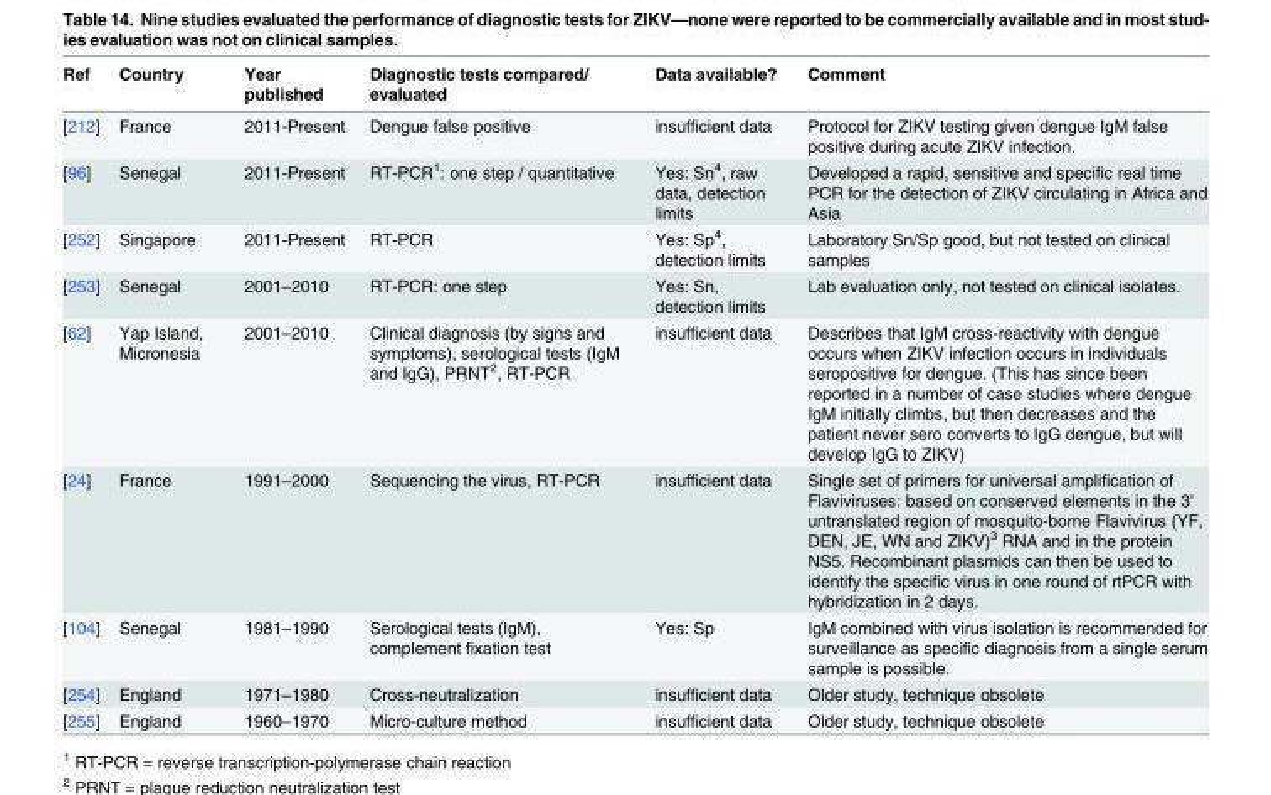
<table><thead><tr><td>Ref</td><td>Country</td><td>Year published</td><td>Diagnostic tests compared/ evaluated</td><td>Data available?</td><td>Comment</td></tr></thead><tbody><tr><td>[212]</td><td>France</td><td>2011-Present</td><td>Dengue false positive</td><td>insufficient data</td><td>Protocol for ZIKV testing given dengue IgM false positive during acute ZIKV infection.</td></tr><tr><td>[96]</td><td>Senegal</td><td>2011-Present</td><td>RT-PCR<sup>1</sup>: one step / quantitative</td><td>Yes: Sn<sup>4</sup>, raw data, detection limits</td><td>Developed a rapid, sensitive and specific real time PCR for the detection of ZIKV circulating in Africa and Asia</td></tr><tr><td>[252]</td><td>Singapore</td><td>2011-Present</td><td>RT-PCR</td><td>Yes: Sp<sup>4</sup>, detection limits</td><td>Laboratory Sn/Sp good, but not tested on clinical samples</td></tr><tr><td>[253]</td><td>Senegal</td><td>2001–2010</td><td>RT-PCR: one step</td><td>Yes: Sn, detection limits</td><td>Lab evaluation only, not tested on clinical isolates.</td></tr><tr><td>[62]</td><td>Yap Island, Micronesia</td><td>2001–2010</td><td>Clinical diagnosis (by signs and symptoms), serological tests (IgM and IgG), PRNT<sup>2</sup>, RT-PCR</td><td>insufficient data</td><td>Describes that IgM cross-reactivity with dengue occurs when ZIKV infection occurs in individuals seropositive for dengue. (This has since been reported in a number of case studies where dengue IgM initially climbs, but then decreases and the patient never sero converts to IgG dengue, but will develop IgG to ZIKV)</td></tr><tr><td>[24]</td><td>France</td><td>1991–2000</td><td>Sequencing the virus, RT-PCR</td><td>insufficient data</td><td>Single set of primers for universal amplification of Flaviviruses: based on conserved elements in the 3&#x27; untranslated region of mosquito-borne Flavivirus (YF, DEN, JE, WN and ZIKV)<sup>3</sup> RNA and in the protein NS5. Recombinant plasmids can then be used to identify the specific virus in one round of rtPCR with hybridization in 2 days.</td></tr><tr><td>[104]</td><td>Senegal</td><td>1981–1990</td><td>Serological tests (IgM), complement fixation test</td><td>Yes: Sp</td><td>IgM combined with virus isolation is recommended for surveillance as specific diagnosis from a single serum sample is possible.</td></tr><tr><td>[254]</td><td>England</td><td>1971–1980</td><td>Cross-neutralization</td><td>insufficient data</td><td>Older study, technique obsolete</td></tr><tr><td>[255]</td><td>England</td><td>1960–1970</td><td>Micro-culture method</td><td>insufficient data</td><td>Older study, technique obsolete</td></tr></tbody></table>